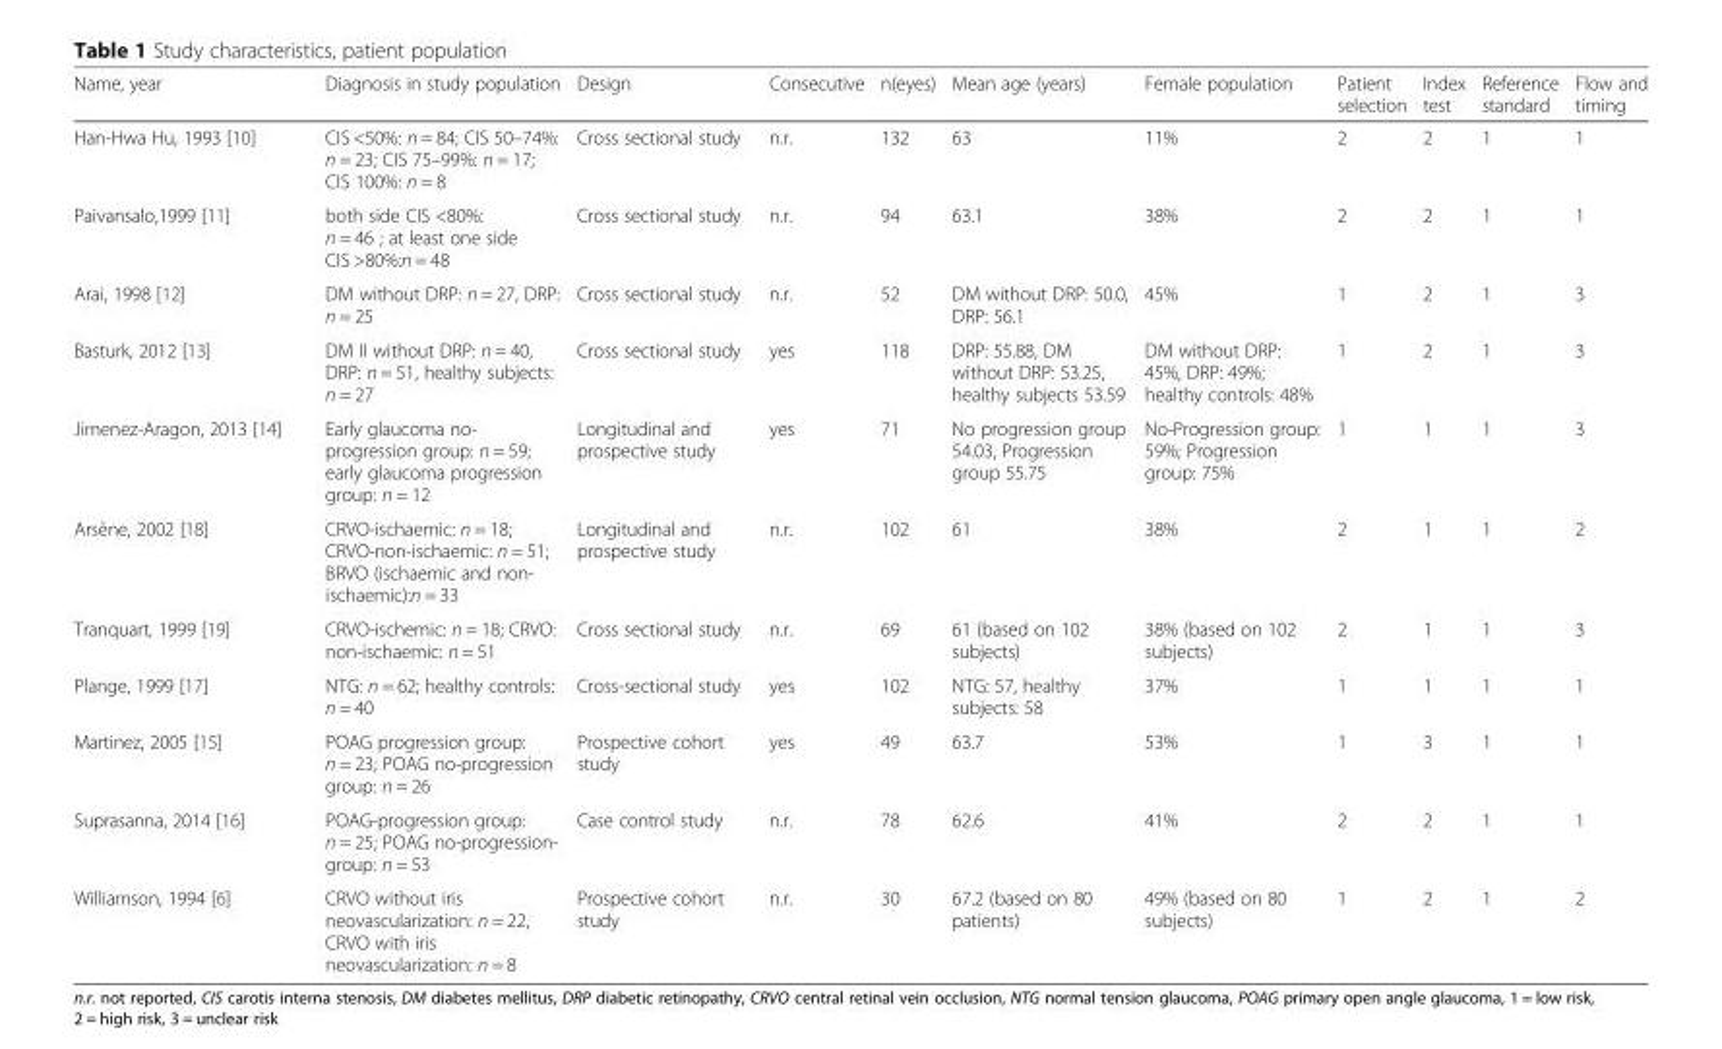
<table><thead><tr><td>Name, year</td><td>Diagnosis in study population</td><td>Design</td><td>Consecutive</td><td>n(eyes)</td><td>Mean age (years)</td><td>Female population</td><td>Patient selection</td><td>Index test</td><td>Reference standard</td><td>Flow and timing</td></tr></thead><tbody><tr><td>Han-Hwa Hu, 1993 [10]</td><td>CIS &lt;50%: n = 84; CIS 50–74%: n = 23; CIS 75–99%: n = 17; CIS 100%: n = 8</td><td>Cross sectional study</td><td>n.r.</td><td>132</td><td>63</td><td>11%</td><td>2</td><td>2</td><td>1</td><td>1</td></tr><tr><td>Paivansalo,1999 [11]</td><td>both side CIS &lt;80%: n = 46 ; at least one side CIS &gt;80%:n = 48</td><td>Cross sectional study</td><td>n.r.</td><td>94</td><td>63.1</td><td>38%</td><td>2</td><td>2</td><td>1</td><td>1</td></tr><tr><td>Arai, 1998 [12]</td><td>DM without DRP: n = 27, DRP: n = 25</td><td>Cross sectional study</td><td>n.r.</td><td>52</td><td>DM without DRP: 50.0, DRP: 56.1</td><td>45%</td><td>1</td><td>2</td><td>1</td><td>3</td></tr><tr><td>Basturk, 2012 [13]</td><td>DM II without DRP: n = 40, DRP: n = 51, healthy subjects: n = 27</td><td>Cross sectional study</td><td>yes</td><td>118</td><td>DRP: 55.88, DM without DRP: 53.25, healthy subjects 53.59</td><td>DM without DRP: 45%, DRP: 49%; healthy controls: 48%</td><td>1</td><td>2</td><td>1</td><td>3</td></tr><tr><td>Jimenez-Aragon, 2013 [14]</td><td>Early glaucoma no- progression group: n = 59; early glaucoma progression group: n = 12</td><td>Longitudinal and prospective study</td><td>yes</td><td>71</td><td>No progression group 54.03, Progression group 55.75</td><td>No-Progression group: 59%; Progression group: 75%</td><td>1</td><td>1</td><td>1</td><td>3</td></tr><tr><td>Arsène, 2002 [18]</td><td>CRVO-ischaemic: n = 18; CRVO-non-ischaemic: n = 51; BRVO (ischaemic and non- ischaemic):n = 33</td><td>Longitudinal and prospective study</td><td>n.r.</td><td>102</td><td>61</td><td>38%</td><td>2</td><td>1</td><td>1</td><td>2</td></tr><tr><td>Tranquart, 1999 [19]</td><td>CRVO-ischemic: n = 18; CRVO: non-ischaemic: n = 51</td><td>Cross sectional study</td><td>n.r.</td><td>69</td><td>61 (based on 102 subjects)</td><td>38% (based on 102 subjects)</td><td>2</td><td>1</td><td>1</td><td>3</td></tr><tr><td>Plange, 1999 [17]</td><td>NTG: n = 62; healthy controls: n = 40</td><td>Cross-sectional study</td><td>yes</td><td>102</td><td>NTG: 57, healthy subjects: 58</td><td>37%</td><td>1</td><td>1</td><td>1</td><td>1</td></tr><tr><td>Martinez, 2005 [15]</td><td>POAG progression group: n = 23; POAG no-progression group: n = 26</td><td>Prospective cohort study</td><td>yes</td><td>49</td><td>63.7</td><td>53%</td><td>1</td><td>3</td><td>1</td><td>1</td></tr><tr><td>Suprasanna, 2014 [16]</td><td>POAG-progression group: n = 25; POAG no-progression- group: n = 53</td><td>Case control study</td><td>n.r.</td><td>78</td><td>62.6</td><td>41%</td><td>2</td><td>2</td><td>1</td><td>1</td></tr><tr><td>Williamson, 1994 [6]</td><td>CRVO without iris neovascularization: n = 22, CRVO with iris neovascularization: n = 8</td><td>Prospective cohort study</td><td>n.r.</td><td>30</td><td>67.2 (based on 80 patients)</td><td>49% (based on 80 subjects)</td><td>1</td><td>2</td><td>1</td><td>2</td></tr></tbody></table>